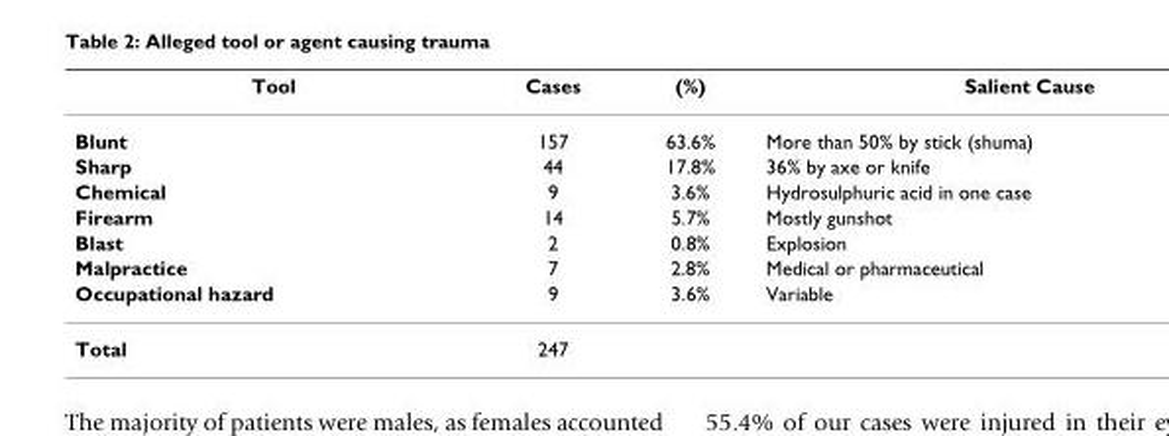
<table><thead><tr><td>Tool</td><td>Cases</td><td>(%)</td><td>Salient Cause</td></tr></thead><tbody><tr><td>Blunt</td><td>157</td><td>63.6%</td><td>More than 50% by stick (shuma)</td></tr><tr><td>Sharp</td><td>44</td><td>17.8%</td><td>36% by axe or knife</td></tr><tr><td>Chemical</td><td>9</td><td>3.6%</td><td>Hydrosulphuric acid in one case</td></tr><tr><td>Firearm</td><td>14</td><td>5.7%</td><td>Mostly gunshot</td></tr><tr><td>Blast</td><td>2</td><td>0.8%</td><td>Explosion</td></tr><tr><td>Malpractice</td><td>7</td><td>2.8%</td><td>Medical or pharmaceutical</td></tr><tr><td>Occupational hazard</td><td>9</td><td>3.6%</td><td>Variable</td></tr><tr><td>Total</td><td>247</td><td></td><td></td></tr></tbody></table>